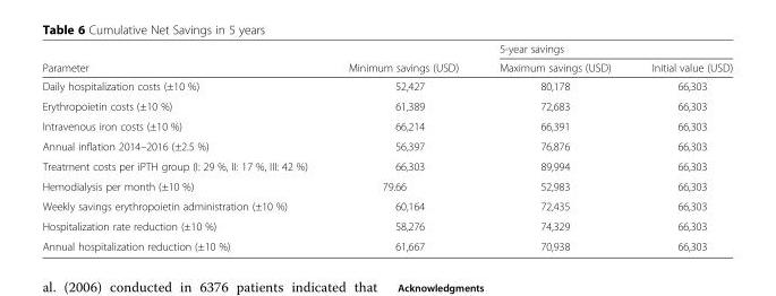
<table><thead><tr><td rowspan="2">Parameter</td><td rowspan="2">Minimum savings (USD)</td><td colspan="2">5-year savings</td></tr><tr><td>Maximum savings (USD)</td><td>Initial value (USD)</td></tr></thead><tbody><tr><td>Daily hospitalization costs (±10 %)</td><td>52,427</td><td>80,178</td><td>66,303</td></tr><tr><td>Erythropoietin costs (±10 %)</td><td>61,389</td><td>72,683</td><td>66,303</td></tr><tr><td>Intravenous iron costs (±10 %)</td><td>66,214</td><td>66,391</td><td>66,303</td></tr><tr><td>Annual inflation 2014–2016 (±2.5 %)</td><td>56,397</td><td>76,876</td><td>66,303</td></tr><tr><td>Treatment costs per iPTH group (I: 29 %, II: 17 %, III: 42 %)</td><td>66,303</td><td>89,994</td><td>66,303</td></tr><tr><td>Hemodialysis per month (±10 %)</td><td>79.66</td><td>52,983</td><td>66,303</td></tr><tr><td>Weekly savings erythropoietin administration (±10 %)</td><td>60,164</td><td>72,435</td><td>66,303</td></tr><tr><td>Hospitalization rate reduction (±10 %)</td><td>58,276</td><td>74,329</td><td>66,303</td></tr><tr><td>Annual hospitalization reduction (±10 %)</td><td>61,667</td><td>70,938</td><td>66,303</td></tr></tbody></table>